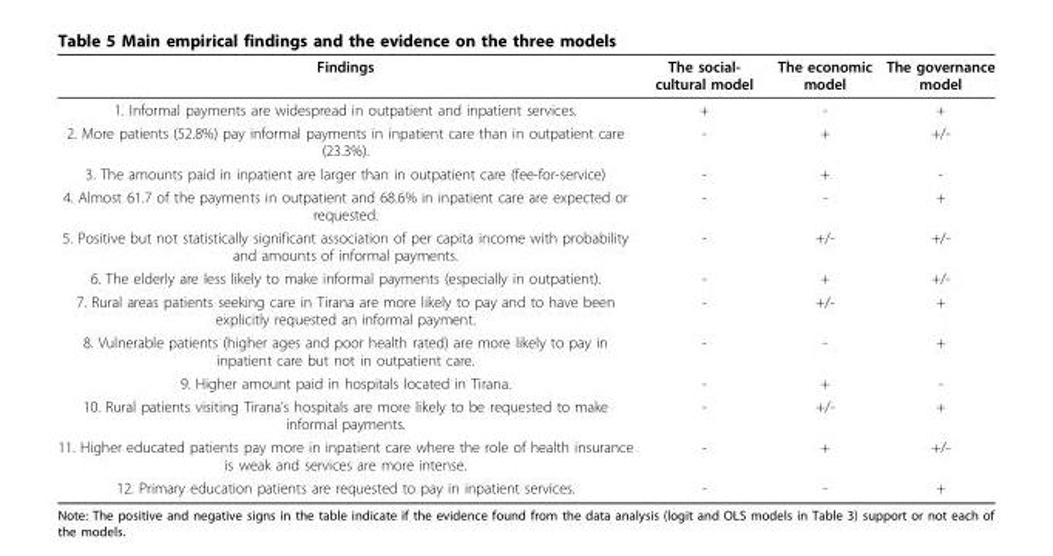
<table><thead><tr><td>Findings</td><td>The social- cultural model</td><td>The economic model</td><td>The governance model</td></tr></thead><tbody><tr><td>1. Informal payments are widespread in outpatient and inpatient services.</td><td>+</td><td>-</td><td>+</td></tr><tr><td>2. More patients (52.8%) pay informal payments in inpatient care than in outpatient care (23.3%).</td><td>-</td><td>+</td><td>+/-</td></tr><tr><td>3. The amounts paid in inpatient are larger than in outpatient care (fee-for-service)</td><td>-</td><td>+</td><td>-</td></tr><tr><td>4. Almost 61.7 of the payments in outpatient and 68.6% in inpatient care are expected or requested.</td><td>-</td><td>-</td><td>+</td></tr><tr><td>5. Positive but not statistically significant association of per capita income with probability and amounts of informal payments.</td><td>-</td><td>+/-</td><td>+/-</td></tr><tr><td>6. The elderly are less likely to make informal payments (especially in outpatient).</td><td>-</td><td>+</td><td>+/-</td></tr><tr><td>7. Rural areas patients seeking care in Tirana are more likely to pay and to have been explicitly requested an informal payment.</td><td>-</td><td>+/-</td><td>+</td></tr><tr><td>8. Vulnerable patients (higher ages and poor health rated) are more likely to pay in inpatient care but not in outpatient care.</td><td>-</td><td>-</td><td>+</td></tr><tr><td>9. Higher amount paid in hospitals located in Tirana.</td><td>-</td><td>+</td><td>-</td></tr><tr><td>10. Rural patients visiting Tirana’s hospitals are more likely to be requested to make informal payments.</td><td>-</td><td>+/-</td><td>+</td></tr><tr><td>11. Higher educated patients pay more in inpatient care where the role of health insurance is weak and services are more intense.</td><td>-</td><td>+</td><td>+/-</td></tr><tr><td>12. Primary education patients are requested to pay in inpatient services.</td><td>-</td><td>-</td><td>+</td></tr></tbody></table>